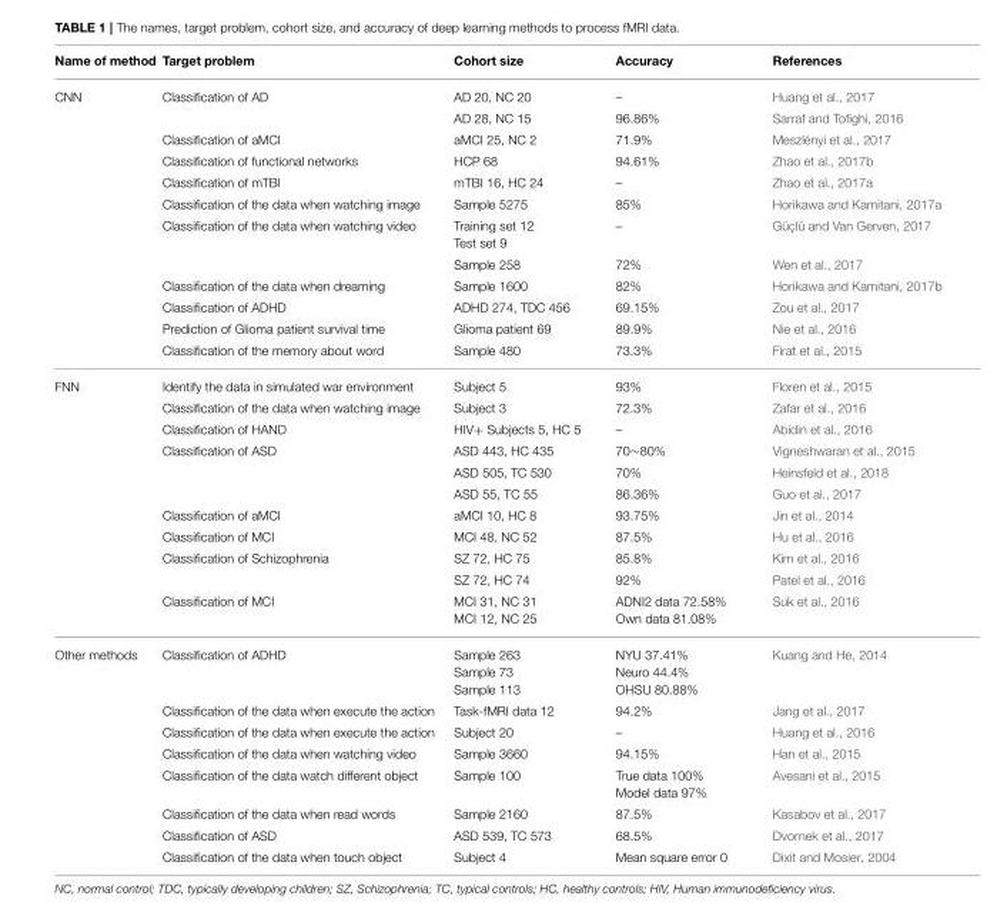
<table><thead><tr><td>Name of method</td><td>Target problem</td><td>Cohort size</td><td>Accuracy</td><td>References</td></tr></thead><tbody><tr><td rowspan="12">CNN</td><td>Classification of AD</td><td>AD 20, NC 20</td><td>–</td><td>Huang et al., 2017</td></tr><tr><td></td><td>AD 28, NC 15</td><td>96.86%</td><td>Sarraf and Tofighi, 2016</td></tr><tr><td>Classification of aMCI</td><td>aMCI 25, NC 2</td><td>71.9%</td><td>Meszlényi et al., 2017</td></tr><tr><td>Classification of functional networks</td><td>HCP 68</td><td>94.61%</td><td>Zhao et al., 2017b</td></tr><tr><td>Classification of mTBI</td><td>mTBI 16, HC 24</td><td>–</td><td>Zhao et al., 2017a</td></tr><tr><td>Classification of the data when watching image</td><td>Sample 5275</td><td>85%</td><td>Horikawa and Kamitani, 2017a</td></tr><tr><td>Classification of the data when watching video</td><td>Training set 12 Test set 9</td><td>–</td><td>Güçlü and Van Gerven, 2017</td></tr><tr><td></td><td>Sample 258</td><td>72%</td><td>Wen et al., 2017</td></tr><tr><td>Classification of the data when dreaming</td><td>Sample 1600</td><td>82%</td><td>Horikawa and Kamitani, 2017b</td></tr><tr><td>Classification of ADHD</td><td>ADHD 274, TDC 456</td><td>69.15%</td><td>Zou et al., 2017</td></tr><tr><td>Prediction of Glioma patient survival time</td><td>Glioma patient 69</td><td>89.9%</td><td>Nie et al., 2016</td></tr><tr><td>Classification of the memory about word</td><td>Sample 480</td><td>73.3%</td><td>Firat et al., 2015</td></tr><tr><td rowspan="11">FNN</td><td>Identify the data in simulated war environment</td><td>Subject 5</td><td>93%</td><td>Floren et al., 2015</td></tr><tr><td>Classification of the data when watching image</td><td>Subject 3</td><td>72.3%</td><td>Zafar et al., 2016</td></tr><tr><td>Classification of HAND</td><td>HIV+ Subjects 5, HC 5</td><td>–</td><td>Abidin et al., 2016</td></tr><tr><td>Classification of ASD</td><td>ASD 443, HC 435</td><td>70∼80%</td><td>Vigneshwaran et al., 2015</td></tr><tr><td></td><td>ASD 505, TC 530</td><td>70%</td><td>Heinsfeld et al., 2018</td></tr><tr><td></td><td>ASD 55, TC 55</td><td>86.36%</td><td>Guo et al., 2017</td></tr><tr><td>Classification of aMCI</td><td>aMCI 10, HC 8</td><td>93.75%</td><td>Jin et al., 2014</td></tr><tr><td>Classification of MCI</td><td>MCI 48, NC 52</td><td>87.5%</td><td>Hu et al., 2016</td></tr><tr><td>Classification of Schizophrenia</td><td>SZ 72, HC 75</td><td>85.8%</td><td>Kim et al., 2016</td></tr><tr><td></td><td>SZ 72, HC 74</td><td>92%</td><td>Patel et al., 2016</td></tr><tr><td>Classification of MCI</td><td>MCI 31, NC 31 MCI 12, NC 25</td><td>ADNI2 data 72.58% Own data 81.08%</td><td>Suk et al., 2016</td></tr><tr><td rowspan="8">Other methods</td><td>Classification of ADHD</td><td>Sample 263 Sample 73 Sample 113</td><td>NYU 37.41% Neuro 44.4% OHSU 80.88%</td><td>Kuang and He, 2014</td></tr><tr><td>Classification of the data when execute the action</td><td>Task-fMRI data 12</td><td>94.2%</td><td>Jang et al., 2017</td></tr><tr><td>Classification of the data when execute the action</td><td>Subject 20</td><td>–</td><td>Huang et al., 2016</td></tr><tr><td>Classification of the data when watching video</td><td>Sample 3660</td><td>94.15%</td><td>Han et al., 2015</td></tr><tr><td>Classification of the data watch different object</td><td>Sample 100</td><td>True data 100% Model data 97%</td><td>Avesani et al., 2015</td></tr><tr><td>Classification of the data when read words</td><td>Sample 2160</td><td>87.5%</td><td>Kasabov et al., 2017</td></tr><tr><td>Classification of ASD</td><td>ASD 539, TC 573</td><td>68.5%</td><td>Dvornek et al., 2017</td></tr><tr><td>Classification of the data when touch object</td><td>Subject 4</td><td>Mean square error 0</td><td>Dixit and Mosier, 2004</td></tr></tbody></table>